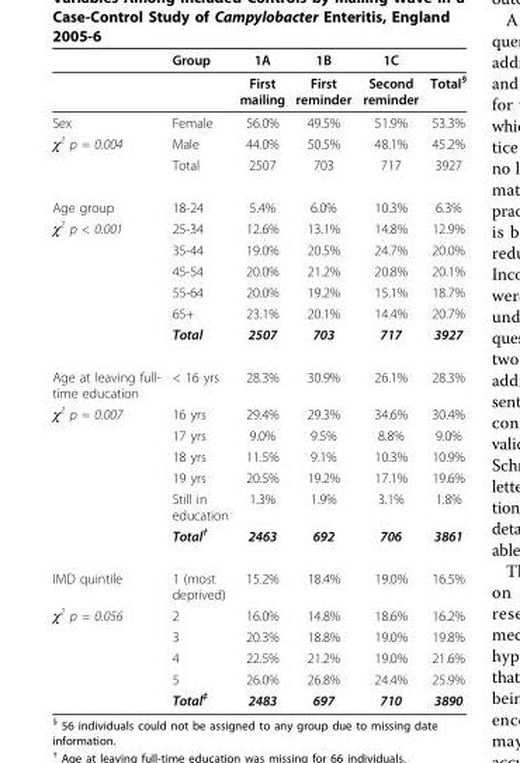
<table><thead><tr><td></td><td>Group</td><td>1A</td><td>1B</td><td>1C</td><td></td></tr></thead><tbody><tr><td></td><td></td><td>First mailing</td><td>First reminder</td><td>Second reminder</td><td>Total<sup>§</sup></td></tr><tr><td>Sex</td><td>Female</td><td>56.0%</td><td>49.5%</td><td>51.9%</td><td>53.3%</td></tr><tr><td rowspan="2">χ<sup>2</sup> p = 0.004</td><td>Male</td><td>44.0%</td><td>50.5%</td><td>48.1%</td><td>45.2%</td></tr><tr><td>Total</td><td>2507</td><td>703</td><td>717</td><td>3927</td></tr><tr><td>Age group</td><td>18-24</td><td>5.4%</td><td>6.0%</td><td>10.3%</td><td>6.3%</td></tr><tr><td rowspan="6">χ<sup>2</sup> p &lt; 0.001</td><td>25-34</td><td>12.6%</td><td>13.1%</td><td>14.8%</td><td>12.9%</td></tr><tr><td>35-44</td><td>19.0%</td><td>20.5%</td><td>24.7%</td><td>20.0%</td></tr><tr><td>45-54</td><td>20.0%</td><td>21.2%</td><td>20.8%</td><td>20.1%</td></tr><tr><td>55-64</td><td>20.0%</td><td>19.2%</td><td>15.1%</td><td>18.7%</td></tr><tr><td>65+</td><td>23.1%</td><td>20.1%</td><td>14.4%</td><td>20.7%</td></tr><tr><td>Total</td><td>2507</td><td>703</td><td>717</td><td>3927</td></tr><tr><td>Age at leaving full- time education</td><td>&lt; 16 yrs</td><td>28.3%</td><td>30.9%</td><td>26.1%</td><td>28.3%</td></tr><tr><td rowspan="6">χ<sup>2</sup> p = 0.007</td><td>16 yrs</td><td>29.4%</td><td>29.3%</td><td>34.6%</td><td>30.4%</td></tr><tr><td>17 yrs</td><td>9.0%</td><td>9.5%</td><td>8.8%</td><td>9.0%</td></tr><tr><td>18 yrs</td><td>11.5%</td><td>9.1%</td><td>10.3%</td><td>10.9%</td></tr><tr><td>19 yrs</td><td>20.5%</td><td>19.2%</td><td>17.1%</td><td>19.6%</td></tr><tr><td>Still in education</td><td>1.3%</td><td>1.9%</td><td>3.1%</td><td>1.8%</td></tr><tr><td>Total<sup>†</sup></td><td>2463</td><td>692</td><td>706</td><td>3861</td></tr><tr><td>IMD quintile</td><td>1 (most deprived)</td><td>15.2%</td><td>18.4%</td><td>19.0%</td><td>16.5%</td></tr><tr><td rowspan="5">χ<sup>2</sup> p = 0.056</td><td>2</td><td>16.0%</td><td>14.8%</td><td>18.6%</td><td>16.2%</td></tr><tr><td>3</td><td>20.3%</td><td>18.8%</td><td>19.0%</td><td>19.8%</td></tr><tr><td>4</td><td>22.5%</td><td>21.2%</td><td>19.0%</td><td>21.6%</td></tr><tr><td>5</td><td>26.0%</td><td>26.8%</td><td>24.4%</td><td>25.9%</td></tr><tr><td>Total<sup>‡</sup></td><td>2483</td><td>697</td><td>710</td><td>3890</td></tr></tbody></table>